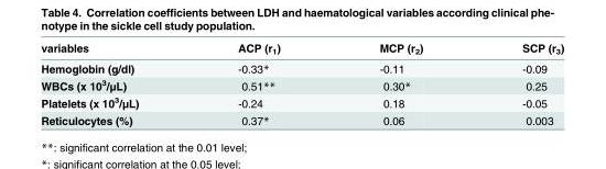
<table><thead><tr><td>variables</td><td>ACP (r<sub>1</sub>)</td><td>MCP (r<sub>2</sub>)</td><td>SCP (r<sub>3</sub>)</td></tr></thead><tbody><tr><td>Hemoglobin (g/dl)</td><td>-0.33*</td><td>-0.11</td><td>-0.09</td></tr><tr><td>WBCs (x 10<sup>3</sup>/μL)</td><td>0.51**</td><td>0.30*</td><td>0.25</td></tr><tr><td>Platelets (x 10<sup>3</sup>/μL)</td><td>-0.24</td><td>0.18</td><td>-0.05</td></tr><tr><td>Reticulocytes (%)</td><td>0.37*</td><td>0.06</td><td>0.003</td></tr></tbody></table>